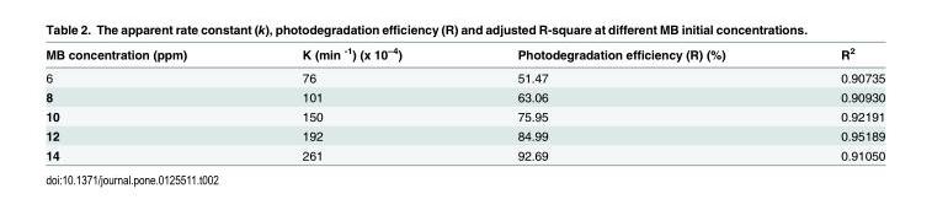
<table><thead><tr><td>MB concentration (ppm)</td><td>K (min <sup>-1</sup>) (x 10<sup>–4</sup>)</td><td>Photodegradation efficiency (R) (%)</td><td>R<sup>2</sup></td></tr></thead><tbody><tr><td>6</td><td>76</td><td>51.47</td><td>0.90735</td></tr><tr><td>8</td><td>101</td><td>63.06</td><td>0.90930</td></tr><tr><td>10</td><td>150</td><td>75.95</td><td>0.92191</td></tr><tr><td>12</td><td>192</td><td>84.99</td><td>0.95189</td></tr><tr><td>14</td><td>261</td><td>92.69</td><td>0.91050</td></tr></tbody></table>